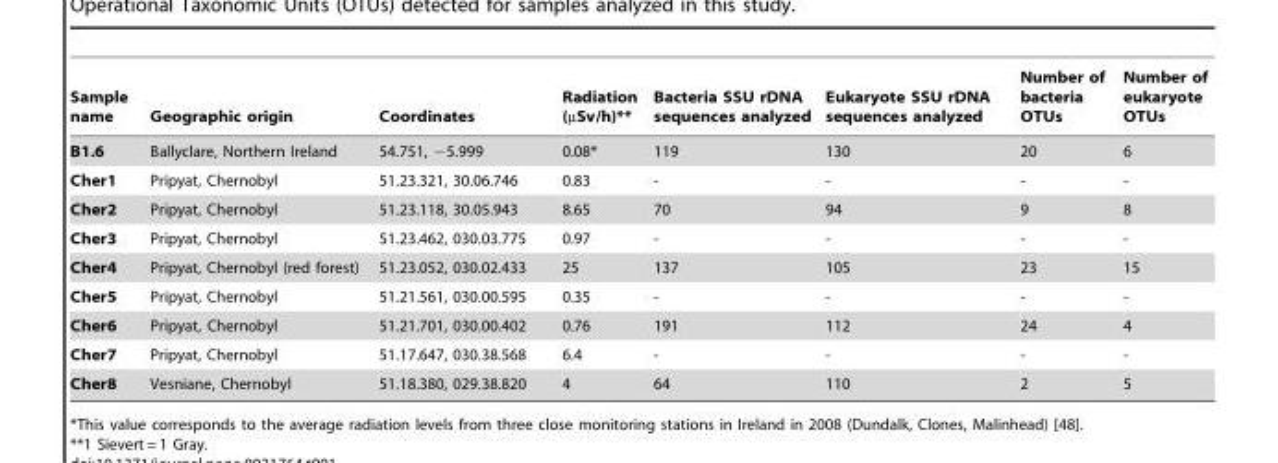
<table><thead><tr><td>Sample name</td><td>Geographic origin</td><td>Coordinates</td><td>Radiation (µSv/h)**</td><td>Bacteria SSU rDNA sequences analyzed</td><td>Eukaryote SSU rDNA sequences analyzed</td><td>Number of bacteria OTUs</td><td>Number of eukaryote OTUs</td></tr></thead><tbody><tr><td>B1.6</td><td>Ballyclare, Northern Ireland</td><td>54.751, −5.999</td><td>0.08*</td><td>119</td><td>130</td><td>20</td><td>6</td></tr><tr><td>Cher1</td><td>Pripyat, Chernobyl</td><td>51.23.321, 30.06.746</td><td>0.83</td><td>-</td><td>-</td><td>-</td><td>-</td></tr><tr><td>Cher2</td><td>Pripyat, Chernobyl</td><td>51.23.118, 30.05.943</td><td>8.65</td><td>70</td><td>94</td><td>9</td><td>8</td></tr><tr><td>Cher3</td><td>Pripyat, Chernobyl</td><td>51.23.462, 030.03.775</td><td>0.97</td><td>-</td><td>-</td><td>-</td><td>-</td></tr><tr><td>Cher4</td><td>Pripyat, Chernobyl (red forest)</td><td>51.23.052, 030.02.433</td><td>25</td><td>137</td><td>105</td><td>23</td><td>15</td></tr><tr><td>Cher5</td><td>Pripyat, Chernobyl</td><td>51.21.561, 030.00.595</td><td>0.35</td><td>-</td><td>-</td><td>-</td><td>-</td></tr><tr><td>Cher6</td><td>Pripyat, Chernobyl</td><td>51.21.701, 030.00.402</td><td>0.76</td><td>191</td><td>112</td><td>24</td><td>4</td></tr><tr><td>Cher7</td><td>Pripyat, Chernobyl</td><td>51.17.647, 030.38.568</td><td>6.4</td><td>-</td><td>-</td><td>-</td><td>-</td></tr><tr><td>Cher8</td><td>Vesniane, Chernobyl</td><td>51.18.380, 029.38.820</td><td>4</td><td>64</td><td>110</td><td>2</td><td>5</td></tr></tbody></table>